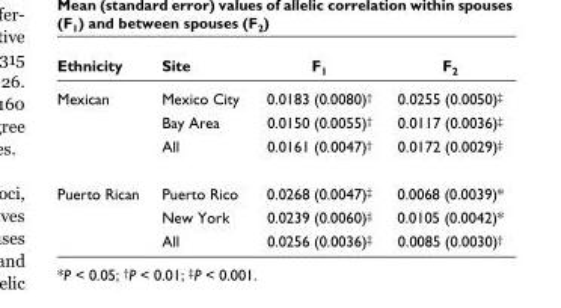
<table><thead><tr><td>Ethnicity</td><td>Site</td><td>F<sub>1</sub></td><td>F<sub>2</sub></td></tr></thead><tbody><tr><td rowspan="3">Mexican</td><td>Mexico City</td><td>0.0183 (0.0080)<sup>†</sup></td><td>0.0255 (0.0050)<sup>‡</sup></td></tr><tr><td>Bay Area</td><td>0.0150 (0.0055)<sup>†</sup></td><td>0.0117 (0.0036)<sup>‡</sup></td></tr><tr><td>All</td><td>0.0161 (0.0047)<sup>†</sup></td><td>0.0172 (0.0029)<sup>‡</sup></td></tr><tr><td rowspan="3">Puerto Rican</td><td>Puerto Rico</td><td>0.0268 (0.0047)<sup>‡</sup></td><td>0.0068 (0.0039)*</td></tr><tr><td>New York</td><td>0.0239 (0.0060)<sup>‡</sup></td><td>0.0105 (0.0042)*</td></tr><tr><td>All</td><td>0.0256 (0.0036)<sup>‡</sup></td><td>0.0085 (0.0030)<sup>†</sup></td></tr></tbody></table>